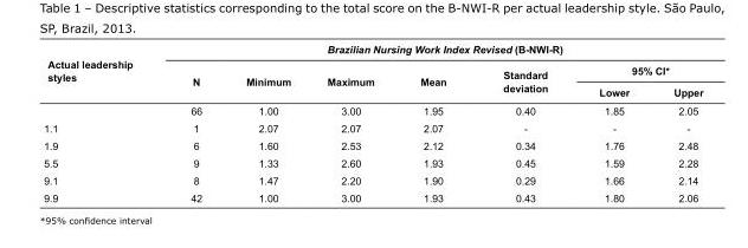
<table><thead><tr><td rowspan="3">Actual leadership styles</td><td colspan="7">Brazilian Nursing Work Index Revised (B-NWI-R)</td></tr><tr><td rowspan="2">N</td><td rowspan="2">Minimum</td><td rowspan="2">Maximum</td><td rowspan="2">Mean</td><td rowspan="2">Standard deviation</td><td colspan="2">95% CI*</td></tr><tr><td>Lower</td><td>Upper</td></tr></thead><tbody><tr><td></td><td>66</td><td>1.00</td><td>3.00</td><td>1.95</td><td>0.40</td><td>1.85</td><td>2.05</td></tr><tr><td>1.1</td><td>1</td><td>2.07</td><td>2.07</td><td>2.07</td><td>-</td><td>-</td><td>-</td></tr><tr><td>1.9</td><td>6</td><td>1.60</td><td>2.53</td><td>2.12</td><td>0.34</td><td>1.76</td><td>2.48</td></tr><tr><td>5.5</td><td>9</td><td>1.33</td><td>2.60</td><td>1.93</td><td>0.45</td><td>1.59</td><td>2.28</td></tr><tr><td>9.1</td><td>8</td><td>1.47</td><td>2.20</td><td>1.90</td><td>0.29</td><td>1.66</td><td>2.14</td></tr><tr><td>9.9</td><td>42</td><td>1.00</td><td>3.00</td><td>1.93</td><td>0.43</td><td>1.80</td><td>2.06</td></tr></tbody></table>